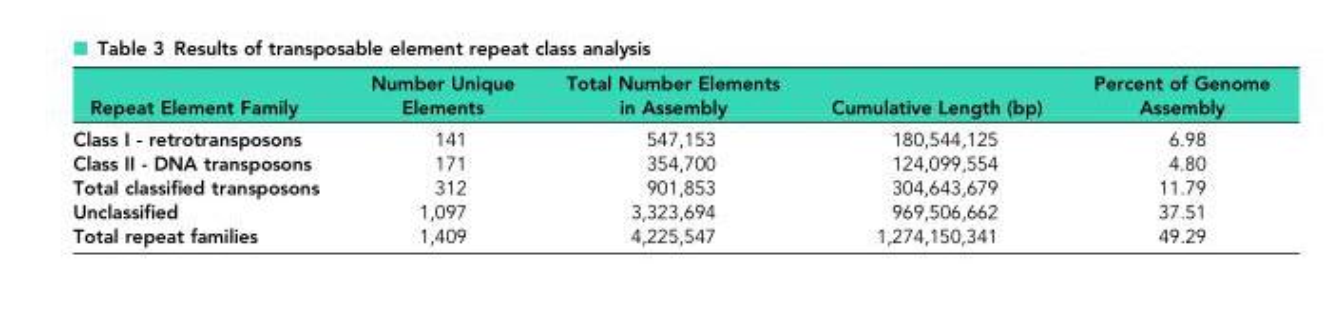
<table><thead><tr><td>Repeat Element Family</td><td>Number Unique Elements</td><td>Total Number Elements in Assembly</td><td>Cumulative Length (bp)</td><td>Percent of Genome Assembly</td></tr></thead><tbody><tr><td>Class I - retrotransposons</td><td>141</td><td>547,153</td><td>180,544,125</td><td>6.98</td></tr><tr><td>Class II - DNA transposons</td><td>171</td><td>354,700</td><td>124,099,554</td><td>4.80</td></tr><tr><td>Total classified transposons</td><td>312</td><td>901,853</td><td>304,643,679</td><td>11.79</td></tr><tr><td>Unclassified</td><td>1,097</td><td>3,323,694</td><td>969,506,662</td><td>37.51</td></tr><tr><td>Total repeat families</td><td>1,409</td><td>4,225,547</td><td>1,274,150,341</td><td>49.29</td></tr></tbody></table>